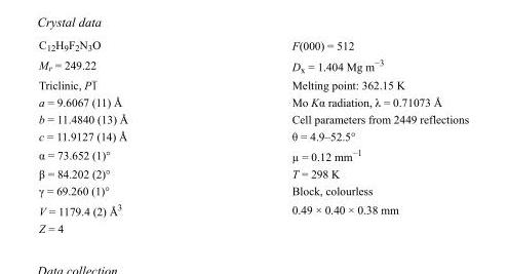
<table><tbody><tr><td>C<sub>12</sub>H<sub>9</sub>F<sub>2</sub>N<sub>3</sub>O</td><td>F(000) = 512</td></tr><tr><td>M<sub>r</sub> = 249.22</td><td>D<sub>x</sub> = 1.404 Mg m<sup>−3</sup></td></tr><tr><td>Triclinic, P1</td><td>Melting point: 362.15 K</td></tr><tr><td>a = 9.6067 (11) Å</td><td>Mo Kα radiation, λ = 0.71073 Å</td></tr><tr><td>b = 11.4840 (13) Å</td><td>Cell parameters from 2449 reflections</td></tr><tr><td>c = 11.9127 (14) Å</td><td>θ = 4.9–52.5°</td></tr><tr><td>α = 73.652 (1)°</td><td>µ = 0.12 mm<sup>−1</sup></td></tr><tr><td>β = 84.202 (2)°</td><td>T = 298 K</td></tr><tr><td>γ = 69.260 (1)°</td><td>Block, colourless</td></tr><tr><td>V = 1179.4 (2) Å<sup>3</sup></td><td>0.49 × 0.40 × 0.38 mm</td></tr><tr><td>Z = 4</td><td></td></tr></tbody></table>